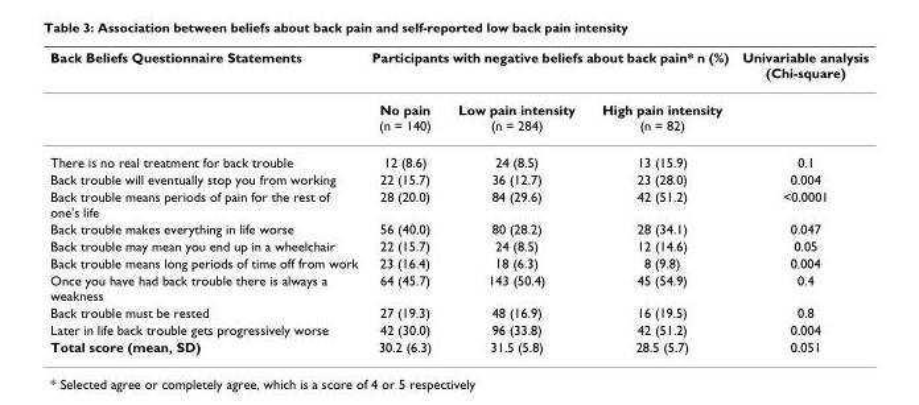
<table><thead><tr><td rowspan="2">Back Beliefs Questionnaire Statements</td><td colspan="3">Participants with negative beliefs about back pain* n (%)</td><td rowspan="2">Univariable analysis (Chi-square)</td></tr><tr><td>No pain (n = 140)</td><td>Low pain intensity (n = 284)</td><td>High pain intensity (n = 82)</td></tr></thead><tbody><tr><td>There is no real treatment for back trouble</td><td>12 (8.6)</td><td>24 (8.5)</td><td>13 (15.9)</td><td>0.1</td></tr><tr><td>Back trouble will eventually stop you from working</td><td>22 (15.7)</td><td>36 (12.7)</td><td>23 (28.0)</td><td>0.004</td></tr><tr><td>Back trouble means periods of pain for the rest of one&#x27;s life</td><td>28 (20.0)</td><td>84 (29.6)</td><td>42 (51.2)</td><td>&lt;0.0001</td></tr><tr><td>Back trouble makes everything in life worse</td><td>56 (40.0)</td><td>80 (28.2)</td><td>28 (34.1)</td><td>0.047</td></tr><tr><td>Back trouble may mean you end up in a wheelchair</td><td>22 (15.7)</td><td>24 (8.5)</td><td>12 (14.6)</td><td>0.05</td></tr><tr><td>Back trouble means long periods of time off from work</td><td>23 (16.4)</td><td>18 (6.3)</td><td>8 (9.8)</td><td>0.004</td></tr><tr><td>Once you have had back trouble there is always a weakness</td><td>64 (45.7)</td><td>143 (50.4)</td><td>45 (54.9)</td><td>0.4</td></tr><tr><td>Back trouble must be rested</td><td>27 (19.3)</td><td>48 (16.9)</td><td>16 (19.5)</td><td>0.8</td></tr><tr><td>Later in life back trouble gets progressively worse</td><td>42 (30.0)</td><td>96 (33.8)</td><td>42 (51.2)</td><td>0.004</td></tr><tr><td>Total score (mean, SD)</td><td>30.2 (6.3)</td><td>31.5 (5.8)</td><td>28.5 (5.7)</td><td>0.051</td></tr></tbody></table>